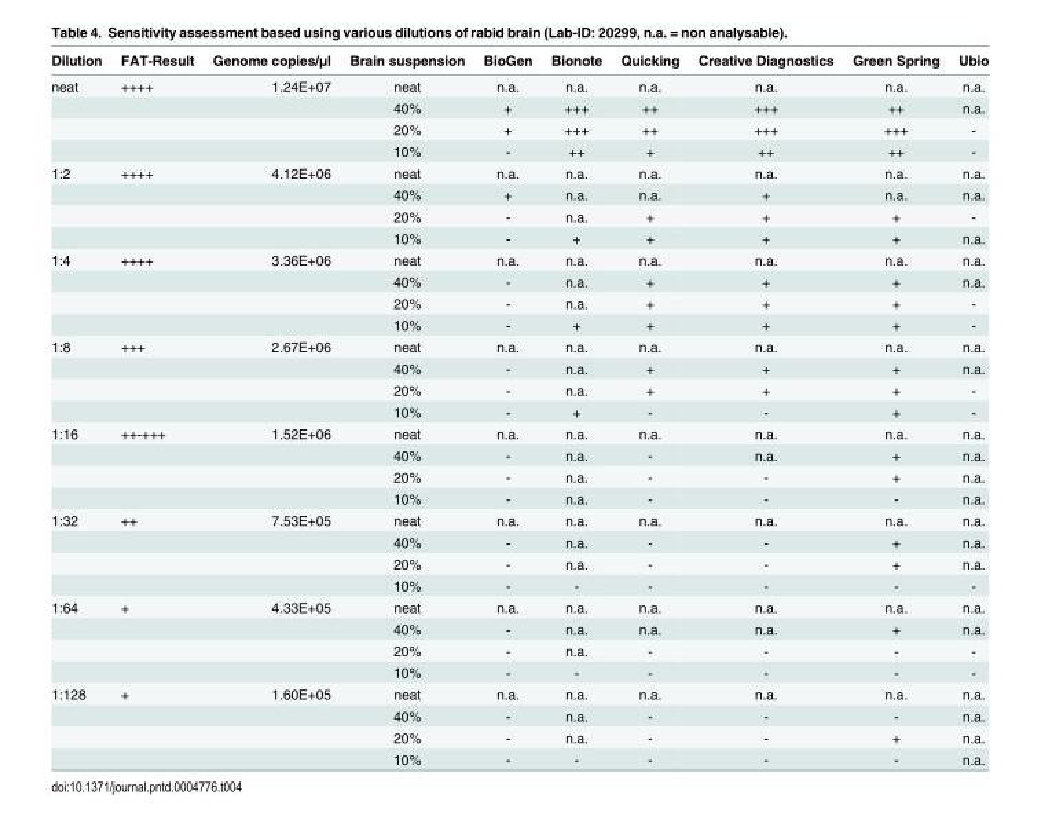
<table><thead><tr><td>Dilution</td><td>FAT-Result</td><td>Genome copies/μl</td><td>Brain suspension</td><td>BioGen</td><td>Bionote</td><td>Quicking</td><td>Creative Diagnostics</td><td>Green Spring</td><td>Ubio</td></tr></thead><tbody><tr><td rowspan="4">neat</td><td>++++</td><td>1.24E+07</td><td>neat</td><td>n.a.</td><td>n.a.</td><td>n.a.</td><td>n.a.</td><td>n.a.</td><td>n.a.</td></tr><tr><td></td><td></td><td>40%</td><td>+</td><td>+++</td><td>++</td><td>+++</td><td>++</td><td>n.a.</td></tr><tr><td></td><td></td><td>20%</td><td>+</td><td>+++</td><td>++</td><td>+++</td><td>+++</td><td>-</td></tr><tr><td></td><td></td><td>10%</td><td>-</td><td>++</td><td>+</td><td>++</td><td>++</td><td>-</td></tr><tr><td rowspan="4">1:2</td><td>++++</td><td>4.12E+06</td><td>neat</td><td>n.a.</td><td>n.a.</td><td>n.a.</td><td>n.a.</td><td>n.a.</td><td>n.a.</td></tr><tr><td></td><td></td><td>40%</td><td>+</td><td>n.a.</td><td>n.a.</td><td>+</td><td>n.a.</td><td>n.a.</td></tr><tr><td></td><td></td><td>20%</td><td>-</td><td>n.a.</td><td>+</td><td>+</td><td>+</td><td>-</td></tr><tr><td></td><td></td><td>10%</td><td>-</td><td>+</td><td>+</td><td>+</td><td>+</td><td>n.a.</td></tr><tr><td rowspan="4">1:4</td><td>++++</td><td>3.36E+06</td><td>neat</td><td>n.a.</td><td>n.a.</td><td>n.a.</td><td>n.a.</td><td>n.a.</td><td>n.a.</td></tr><tr><td></td><td></td><td>40%</td><td>-</td><td>n.a.</td><td>+</td><td>+</td><td>+</td><td>n.a.</td></tr><tr><td></td><td></td><td>20%</td><td>-</td><td>n.a.</td><td>+</td><td>+</td><td>+</td><td>-</td></tr><tr><td></td><td></td><td>10%</td><td>-</td><td>+</td><td>+</td><td>+</td><td>+</td><td>-</td></tr><tr><td rowspan="4">1:8</td><td>+++</td><td>2.67E+06</td><td>neat</td><td>n.a.</td><td>n.a.</td><td>n.a.</td><td>n.a.</td><td>n.a.</td><td>n.a.</td></tr><tr><td></td><td></td><td>40%</td><td>-</td><td>n.a.</td><td>+</td><td>+</td><td>+</td><td>n.a.</td></tr><tr><td></td><td></td><td>20%</td><td>-</td><td>n.a.</td><td>+</td><td>+</td><td>+</td><td>-</td></tr><tr><td></td><td></td><td>10%</td><td>-</td><td>+</td><td>-</td><td>-</td><td>+</td><td>-</td></tr><tr><td rowspan="4">1:16</td><td>++-+++</td><td>1.52E+06</td><td>neat</td><td>n.a.</td><td>n.a.</td><td>n.a.</td><td>n.a.</td><td>n.a.</td><td>n.a.</td></tr><tr><td></td><td></td><td>40%</td><td>-</td><td>n.a.</td><td>-</td><td>n.a.</td><td>+</td><td>n.a.</td></tr><tr><td></td><td></td><td>20%</td><td>-</td><td>n.a.</td><td>-</td><td>-</td><td>+</td><td>n.a.</td></tr><tr><td></td><td></td><td>10%</td><td>-</td><td>n.a.</td><td>-</td><td>-</td><td>-</td><td>n.a.</td></tr><tr><td rowspan="4">1:32</td><td>++</td><td>7.53E+05</td><td>neat</td><td>n.a.</td><td>n.a.</td><td>n.a.</td><td>n.a.</td><td>n.a.</td><td>n.a.</td></tr><tr><td></td><td></td><td>40%</td><td>-</td><td>n.a.</td><td>-</td><td>-</td><td>+</td><td>n.a.</td></tr><tr><td></td><td></td><td>20%</td><td>-</td><td>n.a.</td><td>-</td><td>-</td><td>+</td><td>n.a.</td></tr><tr><td></td><td></td><td>10%</td><td>-</td><td>-</td><td>-</td><td>-</td><td>-</td><td>-</td></tr><tr><td rowspan="4">1:64</td><td>+</td><td>4.33E+05</td><td>neat</td><td>n.a.</td><td>n.a.</td><td>n.a.</td><td>n.a.</td><td>n.a.</td><td>n.a.</td></tr><tr><td></td><td></td><td>40%</td><td>-</td><td>n.a.</td><td>n.a.</td><td>n.a.</td><td>+</td><td>n.a.</td></tr><tr><td></td><td></td><td>20%</td><td>-</td><td>n.a.</td><td>-</td><td>-</td><td>-</td><td>-</td></tr><tr><td></td><td></td><td>10%</td><td>-</td><td>-</td><td>-</td><td>-</td><td>-</td><td>-</td></tr><tr><td rowspan="4">1:128</td><td>+</td><td>1.60E+05</td><td>neat</td><td>n.a.</td><td>n.a.</td><td>n.a.</td><td>n.a.</td><td>n.a.</td><td>n.a.</td></tr><tr><td></td><td></td><td>40%</td><td>-</td><td>n.a.</td><td>-</td><td>-</td><td>-</td><td>n.a.</td></tr><tr><td></td><td></td><td>20%</td><td>-</td><td>n.a.</td><td>-</td><td>-</td><td>+</td><td>n.a.</td></tr><tr><td></td><td></td><td>10%</td><td>-</td><td>-</td><td>-</td><td>-</td><td>-</td><td>n.a.</td></tr></tbody></table>